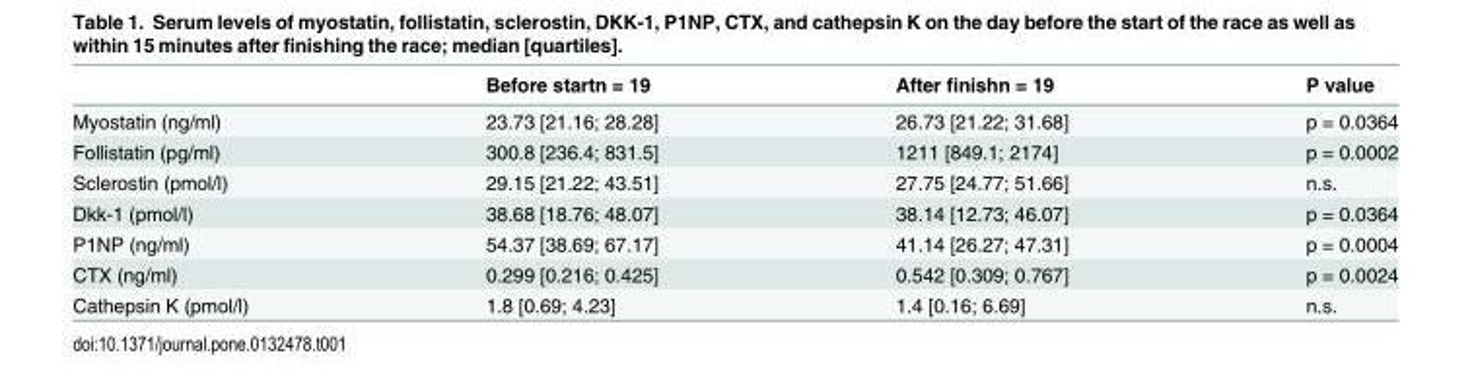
<table><thead><tr><td></td><td>Before startn = 19</td><td>After finishn = 19</td><td>P value</td></tr></thead><tbody><tr><td>Myostatin (ng/ml)</td><td>23.73 [21.16; 28.28]</td><td>26.73 [21.22; 31.68]</td><td>p = 0.0364</td></tr><tr><td>Follistatin (pg/ml)</td><td>300.8 [236.4; 831.5]</td><td>1211 [849.1; 2174]</td><td>p = 0.0002</td></tr><tr><td>Sclerostin (pmol/l)</td><td>29.15 [21.22; 43.51]</td><td>27.75 [24.77; 51.66]</td><td>n.s.</td></tr><tr><td>Dkk-1 (pmol/l)</td><td>38.68 [18.76; 48.07]</td><td>38.14 [12.73; 46.07]</td><td>p = 0.0364</td></tr><tr><td>P1NP (ng/ml)</td><td>54.37 [38.69; 67.17]</td><td>41.14 [26.27; 47.31]</td><td>p = 0.0004</td></tr><tr><td>CTX (ng/ml)</td><td>0.299 [0.216; 0.425]</td><td>0.542 [0.309; 0.767]</td><td>p = 0.0024</td></tr><tr><td>Cathepsin K (pmol/l)</td><td>1.8 [0.69; 4.23]</td><td>1.4 [0.16; 6.69]</td><td>n.s.</td></tr></tbody></table>